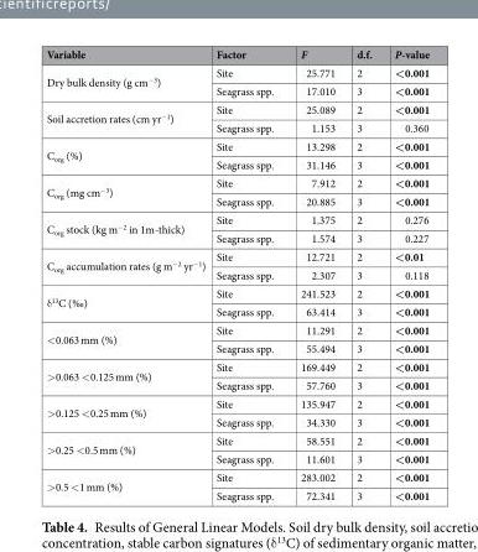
<table><thead><tr><td>Variable</td><td>Factor</td><td>F</td><td>d.f.</td><td>P-value</td></tr></thead><tbody><tr><td rowspan="2">Dry bulk density (g cm<sup>−3</sup>)</td><td>Site</td><td>25.771</td><td>2</td><td>&lt;0.001</td></tr><tr><td>Seagrass spp.</td><td>17.010</td><td>3</td><td>&lt;0.001</td></tr><tr><td rowspan="2">Soil accretion rates (cm yr<sup>−1</sup>)</td><td>Site</td><td>25.089</td><td>2</td><td>&lt;0.001</td></tr><tr><td>Seagrass spp.</td><td>1.153</td><td>3</td><td>0.360</td></tr><tr><td rowspan="2">C<sub>org</sub> (%)</td><td>Site</td><td>13.298</td><td>2</td><td>&lt;0.001</td></tr><tr><td>Seagrass spp.</td><td>31.146</td><td>3</td><td>&lt;0.001</td></tr><tr><td rowspan="2">C<sub>org</sub> (mg cm<sup>−3</sup>)</td><td>Site</td><td>7.912</td><td>2</td><td>&lt;0.001</td></tr><tr><td>Seagrass spp.</td><td>20.885</td><td>3</td><td>&lt;0.001</td></tr><tr><td rowspan="2">C<sub>org</sub> stock (kg m<sup>−2</sup> in 1m-thick)</td><td>Site</td><td>1.375</td><td>2</td><td>0.276</td></tr><tr><td>Seagrass spp.</td><td>1.574</td><td>3</td><td>0.227</td></tr><tr><td rowspan="2">C<sub>org</sub> accumulation rates (g m<sup>−2</sup> yr<sup>−1</sup>)</td><td>Site</td><td>12.721</td><td>2</td><td>&lt;0.01</td></tr><tr><td>Seagrass spp.</td><td>2.307</td><td>3</td><td>0.118</td></tr><tr><td rowspan="2">δ<sup>13</sup>C (‰)</td><td>Site</td><td>241.523</td><td>2</td><td>&lt;0.001</td></tr><tr><td>Seagrass spp.</td><td>63.414</td><td>3</td><td>&lt;0.001</td></tr><tr><td rowspan="2">&lt;0.063 mm (%)</td><td>Site</td><td>11.291</td><td>2</td><td>&lt;0.001</td></tr><tr><td>Seagrass spp.</td><td>55.494</td><td>3</td><td>&lt;0.001</td></tr><tr><td rowspan="2">&gt;0.063 &lt;0.125 mm (%)</td><td>Site</td><td>169.449</td><td>2</td><td>&lt;0.001</td></tr><tr><td>Seagrass spp.</td><td>57.760</td><td>3</td><td>&lt;0.001</td></tr><tr><td rowspan="2">&gt;0.125 &lt;0.25 mm (%)</td><td>Site</td><td>135.947</td><td>2</td><td>&lt;0.001</td></tr><tr><td>Seagrass spp.</td><td>34.330</td><td>3</td><td>&lt;0.001</td></tr><tr><td rowspan="2">&gt;0.25 &lt;0.5 mm (%)</td><td>Site</td><td>58.551</td><td>2</td><td>&lt;0.001</td></tr><tr><td>Seagrass spp.</td><td>11.601</td><td>3</td><td>&lt;0.001</td></tr><tr><td rowspan="2">&gt;0.5 &lt;1 mm (%)</td><td>Site</td><td>283.002</td><td>2</td><td>&lt;0.001</td></tr><tr><td>Seagrass spp.</td><td>72.341</td><td>3</td><td>&lt;0.001</td></tr></tbody></table>